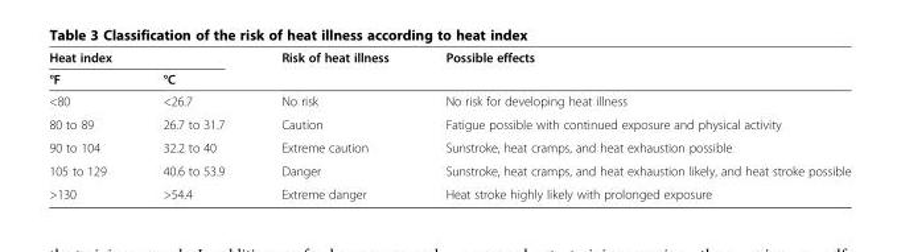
<table><thead><tr><td colspan="2">Heat index</td><td rowspan="2">Risk of heat illness</td><td rowspan="2">Possible effects</td></tr><tr><td>°F</td><td>°C</td></tr></thead><tbody><tr><td>&lt;80</td><td>&lt;26.7</td><td>No risk</td><td>No risk for developing heat illness</td></tr><tr><td>80 to 89</td><td>26.7 to 31.7</td><td>Caution</td><td>Fatigue possible with continued exposure and physical activity</td></tr><tr><td>90 to 104</td><td>32.2 to 40</td><td>Extreme caution</td><td>Sunstroke, heat cramps, and heat exhaustion possible</td></tr><tr><td>105 to 129</td><td>40.6 to 53.9</td><td>Danger</td><td>Sunstroke, heat cramps, and heat exhaustion likely, and heat stroke possible</td></tr><tr><td>&gt;130</td><td>&gt;54.4</td><td>Extreme danger</td><td>Heat stroke highly likely with prolonged exposure</td></tr></tbody></table>